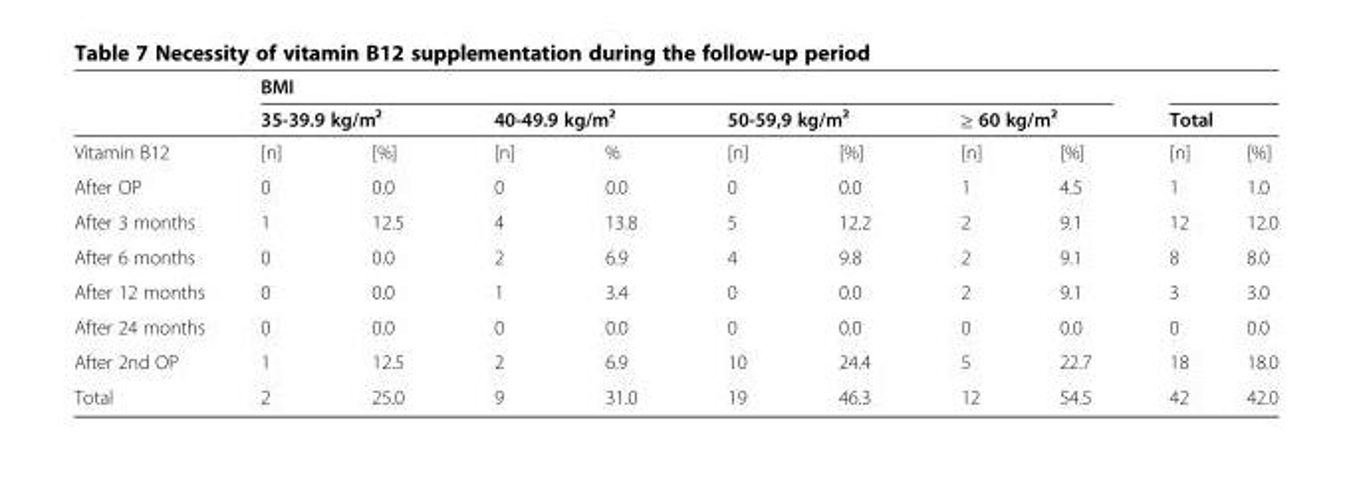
<table><thead><tr><td rowspan="3">Vitamin B12</td><td colspan="10">BMI</td></tr><tr><td colspan="2">35-39.9 kg/m²</td><td colspan="2">40-49.9 kg/m²</td><td colspan="2">50-59,9 kg/m²</td><td colspan="2">≥ 60 kg/m²</td><td colspan="2">Total</td></tr><tr><td>[n]</td><td>[%]</td><td>[n]</td><td>%</td><td>[n]</td><td>[%]</td><td>[n]</td><td>[%]</td><td>[n]</td><td>[%]</td></tr></thead><tbody><tr><td>After OP</td><td>0</td><td>0.0</td><td>0</td><td>0.0</td><td>0</td><td>0.0</td><td>1</td><td>4.5</td><td>1</td><td>1.0</td></tr><tr><td>After 3 months</td><td>1</td><td>12.5</td><td>4</td><td>13.8</td><td>5</td><td>12.2</td><td>2</td><td>9.1</td><td>12</td><td>12.0</td></tr><tr><td>After 6 months</td><td>0</td><td>0.0</td><td>2</td><td>6.9</td><td>4</td><td>9.8</td><td>2</td><td>9.1</td><td>8</td><td>8.0</td></tr><tr><td>After 12 months</td><td>0</td><td>0.0</td><td>1</td><td>3.4</td><td>0</td><td>0.0</td><td>2</td><td>9.1</td><td>3</td><td>3.0</td></tr><tr><td>After 24 months</td><td>0</td><td>0.0</td><td>0</td><td>0.0</td><td>0</td><td>0.0</td><td>0</td><td>0.0</td><td>0</td><td>0.0</td></tr><tr><td>After 2nd OP</td><td>1</td><td>12.5</td><td>2</td><td>6.9</td><td>10</td><td>24.4</td><td>5</td><td>22.7</td><td>18</td><td>18.0</td></tr><tr><td>Total</td><td>2</td><td>25.0</td><td>9</td><td>31.0</td><td>19</td><td>46.3</td><td>12</td><td>54.5</td><td>42</td><td>42.0</td></tr></tbody></table>